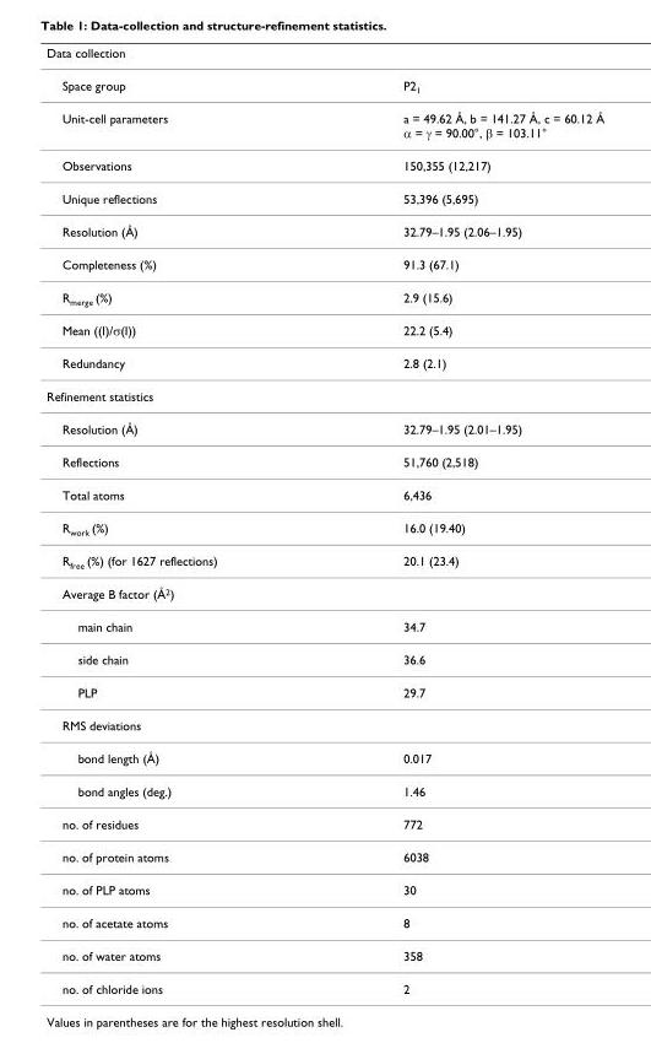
<table><thead><tr><td>Data collection</td><td></td></tr></thead><tbody><tr><td>Space group</td><td>P2<sub>1</sub></td></tr><tr><td>Unit-cell parameters</td><td>a = 49.62 Å, b = 141.27 Å, c = 60.12 Å α = γ = 90.00°, β = 103.11°</td></tr><tr><td>Observations</td><td>150,355 (12,217)</td></tr><tr><td>Unique reflections</td><td>53,396 (5,695)</td></tr><tr><td>Resolution (Å)</td><td>32.79–1.95 (2.06–1.95)</td></tr><tr><td>Completeness (%)</td><td>91.3 (67.1)</td></tr><tr><td>R<sub>merge</sub> (%)</td><td>2.9 (15.6)</td></tr><tr><td>Mean ((I)/σ(I))</td><td>22.2 (5.4)</td></tr><tr><td>Redundancy</td><td>2.8 (2.1)</td></tr><tr><td colspan="2">Refinement statistics</td></tr><tr><td>Resolution (Å)</td><td>32.79–1.95 (2.01–1.95)</td></tr><tr><td>Reflections</td><td>51,760 (2,518)</td></tr><tr><td>Total atoms</td><td>6,436</td></tr><tr><td>R<sub>work</sub> (%)</td><td>16.0 (19.40)</td></tr><tr><td>R<sub>free</sub> (%) (for 1627 reflections)</td><td>20.1 (23.4)</td></tr><tr><td colspan="2">Average B factor (Å<sup>2</sup>)</td></tr><tr><td>main chain</td><td>34.7</td></tr><tr><td>side chain</td><td>36.6</td></tr><tr><td>PLP</td><td>29.7</td></tr><tr><td colspan="2">RMS deviations</td></tr><tr><td>bond length (Å)</td><td>0.017</td></tr><tr><td>bond angles (deg.)</td><td>1.46</td></tr><tr><td>no. of residues</td><td>772</td></tr><tr><td>no. of protein atoms</td><td>6038</td></tr><tr><td>no. of PLP atoms</td><td>30</td></tr><tr><td>no. of acetate atoms</td><td>8</td></tr><tr><td>no. of water atoms</td><td>358</td></tr><tr><td>no. of chloride ions</td><td>2</td></tr></tbody></table>